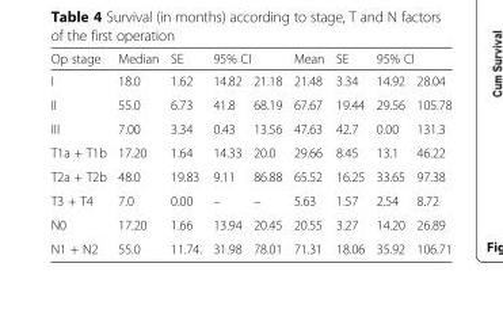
<table><thead><tr><td rowspan="2">Op stage I</td><td rowspan="2">Median 18.0</td><td rowspan="2">SE 1.62</td><td colspan="2">95% CI</td><td rowspan="2">Mean 21.48</td><td rowspan="2">SE 3.34</td><td colspan="2">95% CI</td></tr><tr><td>14.82</td><td>21.18</td><td>14.92</td><td>28.04</td></tr></thead><tbody><tr><td>II</td><td>55.0</td><td>6.73</td><td>41.8</td><td>68.19</td><td>67.67</td><td>19.44</td><td>29.56</td><td>105.78</td></tr><tr><td>III</td><td>7.00</td><td>3.34</td><td>0.43</td><td>13.56</td><td>47.63</td><td>42.7</td><td>0.00</td><td>131.3</td></tr><tr><td>T1a + T1b</td><td>17.20</td><td>1.64</td><td>14.33</td><td>20.0</td><td>29.66</td><td>8.45</td><td>13.1</td><td>46.22</td></tr><tr><td>T2a + T2b</td><td>48.0</td><td>19.83</td><td>9.11</td><td>86.88</td><td>65.52</td><td>16.25</td><td>33.65</td><td>97.38</td></tr><tr><td>T3 + T4</td><td>7.0</td><td>0.00</td><td>–</td><td>–</td><td>5.63</td><td>1.57</td><td>2.54</td><td>8.72</td></tr><tr><td>N0</td><td>17.20</td><td>1.66</td><td>13.94</td><td>20.45</td><td>20.55</td><td>3.27</td><td>14.20</td><td>26.89</td></tr><tr><td>N1 + N2</td><td>55.0</td><td>11.74.</td><td>31.98</td><td>78.01</td><td>71.31</td><td>18.06</td><td>35.92</td><td>106.71</td></tr></tbody></table>